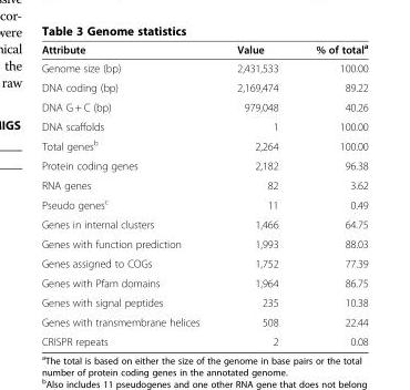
<table><thead><tr><td>Attribute</td><td>Value</td><td>% of total<sup>a</sup></td></tr></thead><tbody><tr><td>Genome size (bp)</td><td>2,431,533</td><td>100.00</td></tr><tr><td>DNA coding (bp)</td><td>2,169,474</td><td>89.22</td></tr><tr><td>DNA G + C (bp)</td><td>979,048</td><td>40.26</td></tr><tr><td>DNA scaffolds</td><td>1</td><td>100.00</td></tr><tr><td>Total genes<sup>b</sup></td><td>2,264</td><td>100.00</td></tr><tr><td>Protein coding genes</td><td>2,182</td><td>96.38</td></tr><tr><td>RNA genes</td><td>82</td><td>3.62</td></tr><tr><td>Pseudo genes<sup>c</sup></td><td>11</td><td>0.49</td></tr><tr><td>Genes in internal clusters</td><td>1,466</td><td>64.75</td></tr><tr><td>Genes with function prediction</td><td>1,993</td><td>88.03</td></tr><tr><td>Genes assigned to COGs</td><td>1,752</td><td>77.39</td></tr><tr><td>Genes with Pfam domains</td><td>1,964</td><td>86.75</td></tr><tr><td>Genes with signal peptides</td><td>235</td><td>10.38</td></tr><tr><td>Genes with transmembrane helices</td><td>508</td><td>22.44</td></tr><tr><td>CRISPR repeats</td><td>2</td><td>0.08</td></tr></tbody></table>